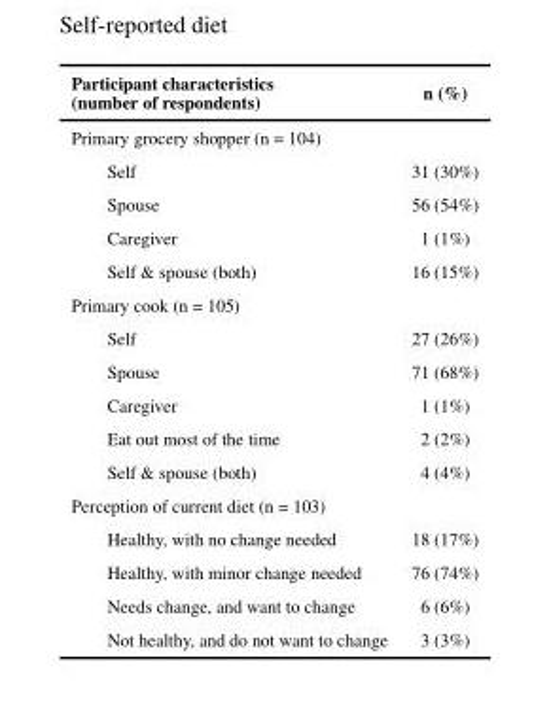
<table><thead><tr><td>Participant characteristics (number of respondents)</td><td>n (%)</td></tr></thead><tbody><tr><td colspan="2">Primary grocery shopper (n = 104)</td></tr><tr><td>Self</td><td>31 (30%)</td></tr><tr><td>Spouse</td><td>56 (54%)</td></tr><tr><td>Caregiver</td><td>1 (1%)</td></tr><tr><td>Self &amp; spouse (both)</td><td>16 (15%)</td></tr><tr><td colspan="2">Primary cook (n = 105)</td></tr><tr><td>Self</td><td>27 (26%)</td></tr><tr><td>Spouse</td><td>71 (68%)</td></tr><tr><td>Caregiver</td><td>1 (1%)</td></tr><tr><td>Eat out most of the time</td><td>2 (2%)</td></tr><tr><td>Self &amp; spouse (both)</td><td>4 (4%)</td></tr><tr><td colspan="2">Perception of current diet (n = 103)</td></tr><tr><td>Healthy, with no change needed</td><td>18 (17%)</td></tr><tr><td>Healthy, with minor change needed</td><td>76 (74%)</td></tr><tr><td>Needs change, and want to change</td><td>6 (6%)</td></tr><tr><td>Not healthy, and do not want to change</td><td>3 (3%)</td></tr></tbody></table>